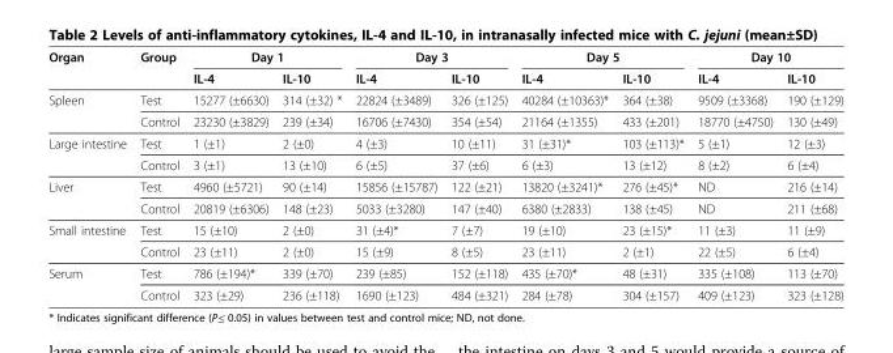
<table><thead><tr><td rowspan="2">Organ</td><td rowspan="2">Group</td><td colspan="2">Day 1</td><td colspan="2">Day 3</td><td colspan="2">Day 5</td><td colspan="2">Day 10</td></tr><tr><td>IL-4</td><td>IL-10</td><td>IL-4</td><td>IL-10</td><td>IL-4</td><td>IL-10</td><td>IL-4</td><td>IL-10</td></tr></thead><tbody><tr><td rowspan="2">Spleen</td><td>Test</td><td>15277 (±6630)</td><td>314 (±32) *</td><td>22824 (±3489)</td><td>326 (±125)</td><td>40284 (±10363)*</td><td>364 (±38)</td><td>9509 (±3368)</td><td>190 (±129)</td></tr><tr><td>Control</td><td>23230 (±3829)</td><td>239 (±34)</td><td>16706 (±7430)</td><td>354 (±54)</td><td>21164 (±1355)</td><td>433 (±201)</td><td>18770 (±4750)</td><td>130 (±49)</td></tr><tr><td rowspan="2">Large intestine</td><td>Test</td><td>1 (±1)</td><td>2 (±0)</td><td>4 (±3)</td><td>10 (±11)</td><td>31 (±31)*</td><td>103 (±113)*</td><td>5 (±1)</td><td>12 (±3)</td></tr><tr><td>Control</td><td>3 (±1)</td><td>13 (±10)</td><td>6 (±5)</td><td>37 (±6)</td><td>6 (±3)</td><td>13 (±12)</td><td>8 (±2)</td><td>6 (±4)</td></tr><tr><td rowspan="2">Liver</td><td>Test</td><td>4960 (±5721)</td><td>90 (±14)</td><td>15856 (±15787)</td><td>122 (±21)</td><td>13820 (±3241)*</td><td>276 (±45)*</td><td>ND</td><td>216 (±14)</td></tr><tr><td>Control</td><td>20819 (±6306)</td><td>148 (±23)</td><td>5033 (±3280)</td><td>147 (±40)</td><td>6380 (±2833)</td><td>138 (±45)</td><td>ND</td><td>211 (±68)</td></tr><tr><td rowspan="2">Small intestine</td><td>Test</td><td>15 (±10)</td><td>2 (±0)</td><td>31 (±4)*</td><td>7 (±7)</td><td>19 (±10)</td><td>23 (±15)*</td><td>11 (±3)</td><td>11 (±9)</td></tr><tr><td>Control</td><td>23 (±11)</td><td>2 (±0)</td><td>15 (±9)</td><td>8 (±5)</td><td>23 (±11)</td><td>2 (±1)</td><td>22 (±5)</td><td>6 (±4)</td></tr><tr><td rowspan="2">Serum</td><td>Test</td><td>786 (±194)*</td><td>339 (±70)</td><td>239 (±85)</td><td>152 (±118)</td><td>435 (±70)*</td><td>48 (±31)</td><td>335 (±108)</td><td>113 (±70)</td></tr><tr><td>Control</td><td>323 (±29)</td><td>236 (±118)</td><td>1690 (±123)</td><td>484 (±321)</td><td>284 (±78)</td><td>304 (±157)</td><td>409 (±123)</td><td>323 (±128)</td></tr></tbody></table>